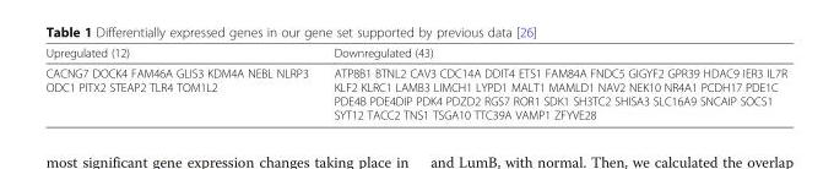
<table><thead><tr><td>Upregulated (12)</td><td>Downregulated (43)</td></tr></thead><tbody><tr><td>CACNG7 DOCK4 FAM46A GLIS3 KDM4A NEBL NLRP3 ODC1 PITX2 STEAP2 TLR4 TOM1L2</td><td>ATP8B1 BTNL2 CAV3 CDC14A DDIT4 ETS1 FAM84A FNDC5 GIGYF2 GPR39 HDAC9 IER3 IL7R KLF2 KLRC1 LAMB3 LIMCH1 LYPD1 MALT1 MAMLD1 NAV2 NEK10 NR4A1 PCDH17 PDE1C PDE4B PDE4DIP PDK4 PDZD2 RGS7 ROR1 SDK1 SH3TC2 SHISA3 SLC16A9 SNCAIP SOCS1 SYT12 TACC2 TNS1 TSGA10 TTC39A VAMP1 ZFYVE28</td></tr></tbody></table>